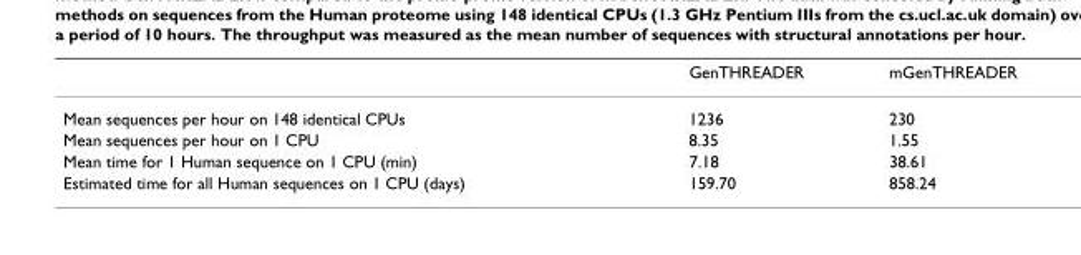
<table><thead><tr><td></td><td>GenTHREADER</td><td>mGenTHREADER</td></tr></thead><tbody><tr><td>Mean sequences per hour on 148 identical CPUs</td><td>1236</td><td>230</td></tr><tr><td>Mean sequences per hour on 1 CPU</td><td>8.35</td><td>1.55</td></tr><tr><td>Mean time for 1 Human sequence on 1 CPU (min)</td><td>7.18</td><td>38.61</td></tr><tr><td>Estimated time for all Human sequences on 1 CPU (days)</td><td>159.70</td><td>858.24</td></tr></tbody></table>